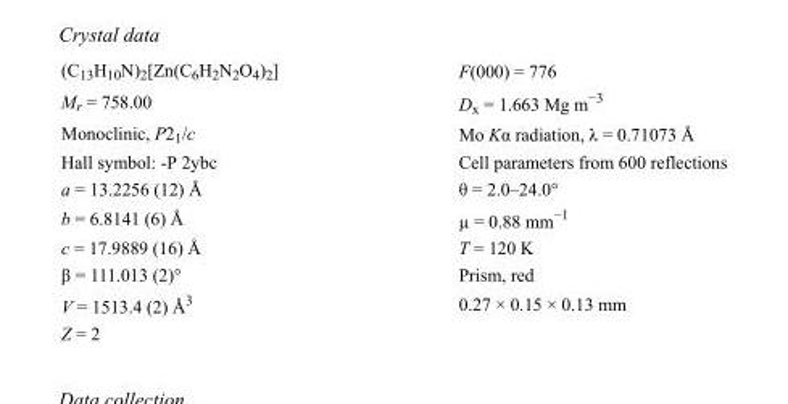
<table><tbody><tr><td>(C<sub>13</sub>H<sub>10</sub>N)<sub>2</sub>[Zn(C<sub>6</sub>H<sub>2</sub>N<sub>2</sub>O<sub>4</sub>)<sub>2</sub>]</td><td>F(000) = 776</td></tr><tr><td>M<sub>r</sub> = 758.00</td><td>D<sub>x</sub> = 1.663 Mg m<sup>−3</sup></td></tr><tr><td>Monoclinic, P2<sub>1</sub>/c</td><td>Mo Kα radiation, λ = 0.71073 Å</td></tr><tr><td>Hall symbol: -P 2ybc</td><td>Cell parameters from 600 reflections</td></tr><tr><td>a = 13.2256 (12) Å</td><td>θ = 2.0–24.0°</td></tr><tr><td>b = 6.8141 (6) Å</td><td>µ = 0.88 mm<sup>−1</sup></td></tr><tr><td>c = 17.9889 (16) Å</td><td>T = 120 K</td></tr><tr><td>β = 111.013 (2)°</td><td>Prism, red</td></tr><tr><td>V = 1513.4 (2) Å<sup>3</sup></td><td>0.27 × 0.15 × 0.13 mm</td></tr><tr><td>Z = 2</td><td></td></tr></tbody></table>